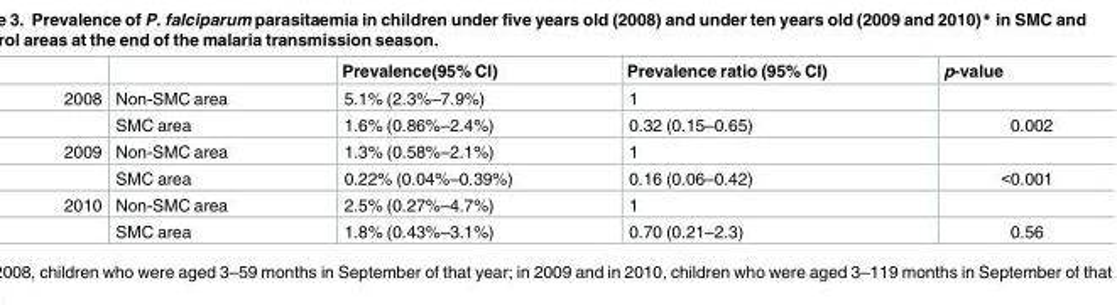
<table><thead><tr><td></td><td></td><td>Prevalence(95% CI)</td><td>Prevalence ratio (95% CI)</td><td>p-value</td></tr></thead><tbody><tr><td rowspan="2">2008</td><td>Non-SMC area</td><td>5.1% (2.3%–7.9%)</td><td>1</td><td></td></tr><tr><td>SMC area</td><td>1.6% (0.86%–2.4%)</td><td>0.32 (0.15–0.65)</td><td>0.002</td></tr><tr><td rowspan="2">2009</td><td>Non-SMC area</td><td>1.3% (0.58%–2.1%)</td><td>1</td><td></td></tr><tr><td>SMC area</td><td>0.22% (0.04%–0.39%)</td><td>0.16 (0.06–0.42)</td><td>&lt;0.001</td></tr><tr><td rowspan="2">2010</td><td>Non-SMC area</td><td>2.5% (0.27%–4.7%)</td><td>1</td><td></td></tr><tr><td>SMC area</td><td>1.8% (0.43%–3.1%)</td><td>0.70 (0.21–2.3)</td><td>0.56</td></tr></tbody></table>